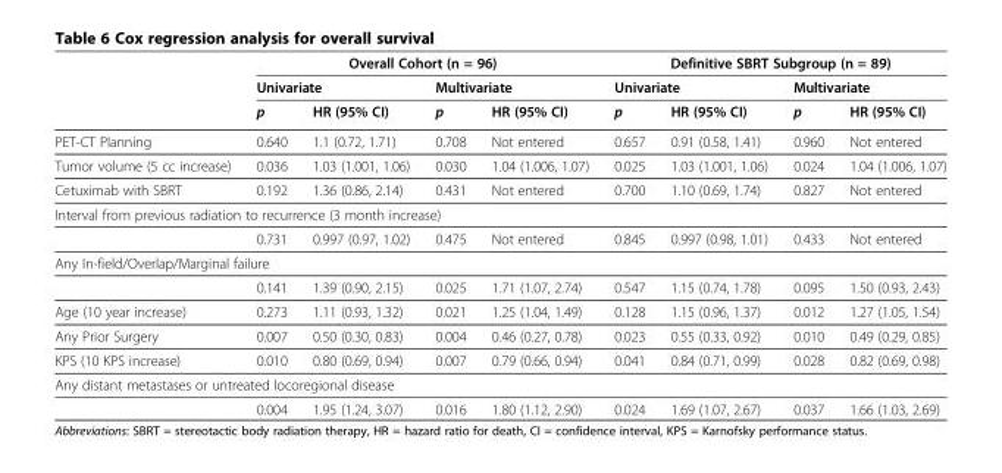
<table><thead><tr><td rowspan="3"></td><td colspan="4">Overall Cohort (n = 96)</td><td colspan="4">Definitive SBRT Subgroup (n = 89)</td></tr><tr><td colspan="2">Univariate</td><td colspan="2">Multivariate</td><td colspan="2">Univariate</td><td colspan="2">Multivariate</td></tr><tr><td>p</td><td>HR (95% CI)</td><td>p</td><td>HR (95% CI)</td><td>p</td><td>HR (95% CI)</td><td>p</td><td>HR (95% CI)</td></tr></thead><tbody><tr><td>PET-CT Planning</td><td>0.640</td><td>1.1 (0.72, 1.71)</td><td>0.708</td><td>Not entered</td><td>0.657</td><td>0.91 (0.58, 1.41)</td><td>0.960</td><td>Not entered</td></tr><tr><td>Tumor volume (5 cc increase)</td><td>0.036</td><td>1.03 (1.001, 1.06)</td><td>0.030</td><td>1.04 (1.006, 1.07)</td><td>0.025</td><td>1.03 (1.001, 1.06)</td><td>0.024</td><td>1.04 (1.006, 1.07)</td></tr><tr><td>Cetuximab with SBRT</td><td>0.192</td><td>1.36 (0.86, 2.14)</td><td>0.431</td><td>Not entered</td><td>0.700</td><td>1.10 (0.69, 1.74)</td><td>0.827</td><td>Not entered</td></tr><tr><td colspan="9">Interval from previous radiation to recurrence (3 month increase)</td></tr><tr><td></td><td>0.731</td><td>0.997 (0.97, 1.02)</td><td>0.475</td><td>Not entered</td><td>0.845</td><td>0.997 (0.98, 1.01)</td><td>0.433</td><td>Not entered</td></tr><tr><td colspan="9">Any In-field/Overlap/Marginal failure</td></tr><tr><td></td><td>0.141</td><td>1.39 (0.90, 2.15)</td><td>0.025</td><td>1.71 (1.07, 2.74)</td><td>0.547</td><td>1.15 (0.74, 1.78)</td><td>0.095</td><td>1.50 (0.93, 2.43)</td></tr><tr><td>Age (10 year increase)</td><td>0.273</td><td>1.11 (0.93, 1.32)</td><td>0.021</td><td>1.25 (1.04, 1.49)</td><td>0.128</td><td>1.15 (0.96, 1.37)</td><td>0.012</td><td>1.27 (1.05, 1.54)</td></tr><tr><td>Any Prior Surgery</td><td>0.007</td><td>0.50 (0.30, 0.83)</td><td>0.004</td><td>0.46 (0.27, 0.78)</td><td>0.023</td><td>0.55 (0.33, 0.92)</td><td>0.010</td><td>0.49 (0.29, 0.85)</td></tr><tr><td>KPS (10 KPS increase)</td><td>0.010</td><td>0.80 (0.69, 0.94)</td><td>0.007</td><td>0.79 (0.66, 0.94)</td><td>0.041</td><td>0.84 (0.71, 0.99)</td><td>0.028</td><td>0.82 (0.69, 0.98)</td></tr><tr><td colspan="9">Any distant metastases or untreated locoregional disease</td></tr><tr><td></td><td>0.004</td><td>1.95 (1.24, 3.07)</td><td>0.016</td><td>1.80 (1.12, 2.90)</td><td>0.024</td><td>1.69 (1.07, 2.67)</td><td>0.037</td><td>1.66 (1.03, 2.69)</td></tr></tbody></table>